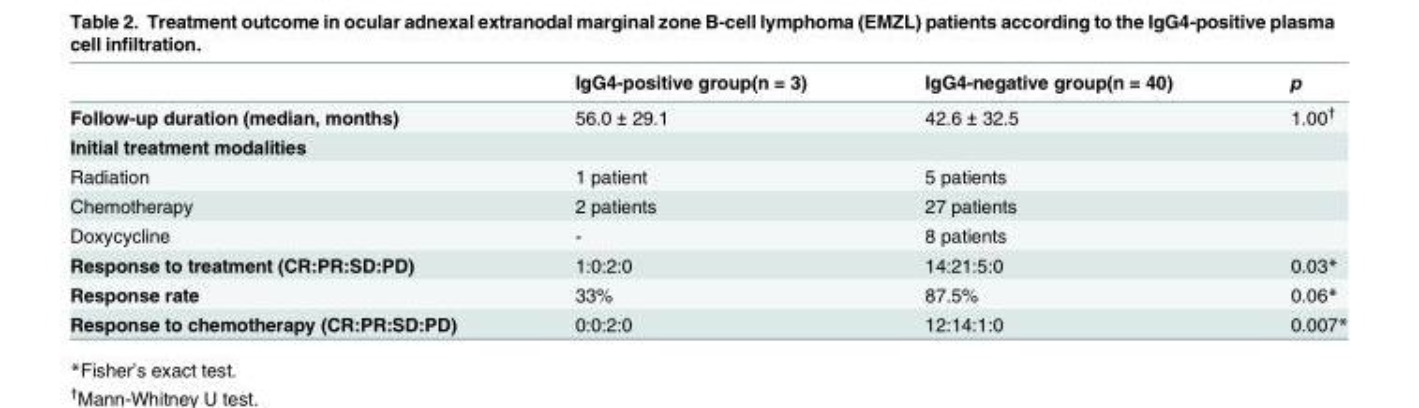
<table><thead><tr><td></td><td>IgG4-positive group(n = 3)</td><td>IgG4-negative group(n = 40)</td><td>p</td></tr></thead><tbody><tr><td>Follow-up duration (median, months)</td><td>56.0 ± 29.1</td><td>42.6 ± 32.5</td><td>1.00<sup>†</sup></td></tr><tr><td colspan="4">Initial treatment modalities</td></tr><tr><td>Radiation</td><td>1 patient</td><td>5 patients</td><td></td></tr><tr><td>Chemotherapy</td><td>2 patients</td><td>27 patients</td><td></td></tr><tr><td>Doxycycline</td><td>-</td><td>8 patients</td><td></td></tr><tr><td>Response to treatment (CR:PR:SD:PD)</td><td>1:0:2:0</td><td>14:21:5:0</td><td>0.03*</td></tr><tr><td>Response rate</td><td>33%</td><td>87.5%</td><td>0.06*</td></tr><tr><td>Response to chemotherapy (CR:PR:SD:PD)</td><td>0:0:2:0</td><td>12:14:1:0</td><td>0.007*</td></tr></tbody></table>